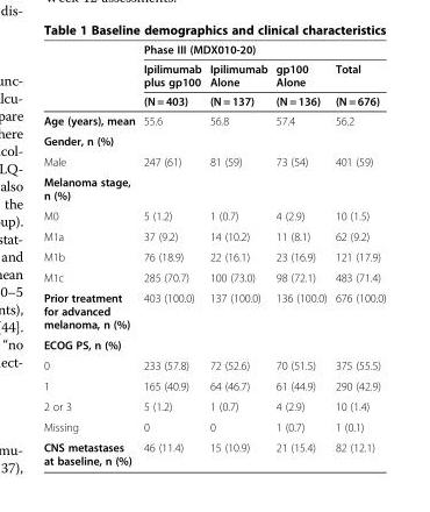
<table><thead><tr><td rowspan="3"></td><td colspan="4">Phase III (MDX010-20)</td></tr><tr><td rowspan="2">Ipilimumab plus gp100 (N = 403)</td><td rowspan="2">Ipilimumab Alone (N = 137)</td><td rowspan="2">gp100 Alone (N = 136)</td><td rowspan="2">Total (N = 676)</td></tr><tr></tr></thead><tbody><tr><td>Age (years), mean</td><td>55.6</td><td>56.8</td><td>57.4</td><td>56.2</td></tr><tr><td colspan="5">Gender, n (%)</td></tr><tr><td>Male</td><td>247 (61)</td><td>81 (59)</td><td>73 (54)</td><td>401 (59)</td></tr><tr><td colspan="5">Melanoma stage, n (%)</td></tr><tr><td>M0</td><td>5 (1.2)</td><td>1 (0.7)</td><td>4 (2.9)</td><td>10 (1.5)</td></tr><tr><td>M1a</td><td>37 (9.2)</td><td>14 (10.2)</td><td>11 (8.1)</td><td>62 (9.2)</td></tr><tr><td>M1b</td><td>76 (18.9)</td><td>22 (16.1)</td><td>23 (16.9)</td><td>121 (17.9)</td></tr><tr><td>M1c</td><td>285 (70.7)</td><td>100 (73.0)</td><td>98 (72.1)</td><td>483 (71.4)</td></tr><tr><td>Prior treatment for advanced melanoma, n (%)</td><td>403 (100.0)</td><td>137 (100.0)</td><td>136 (100.0)</td><td>676 (100.0)</td></tr><tr><td colspan="5">ECOG PS, n (%)</td></tr><tr><td>0</td><td>233 (57.8)</td><td>72 (52.6)</td><td>70 (51.5)</td><td>375 (55.5)</td></tr><tr><td>1</td><td>165 (40.9)</td><td>64 (46.7)</td><td>61 (44.9)</td><td>290 (42.9)</td></tr><tr><td>2 or 3</td><td>5 (1.2)</td><td>1 (0.7)</td><td>4 (2.9)</td><td>10 (1.4)</td></tr><tr><td>Missing</td><td>0</td><td>0</td><td>1 (0.7)</td><td>1 (0.1)</td></tr><tr><td>CNS metastases at baseline, n (%)</td><td>46 (11.4)</td><td>15 (10.9)</td><td>21 (15.4)</td><td>82 (12.1)</td></tr></tbody></table>